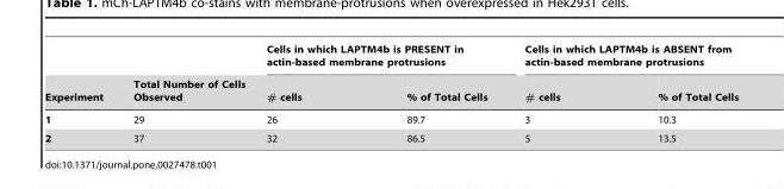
<table><thead><tr><td rowspan="2">Experiment</td><td rowspan="2">Total Number of Cells Observed</td><td colspan="2">Cells in which LAPTM4b is PRESENT in actin-based membrane protrusions</td><td colspan="2">Cells in which LAPTM4b is ABSENT from actin-based membrane protrusions</td></tr><tr><td># cells</td><td>% of Total Cells</td><td># cells</td><td>% of Total Cells</td></tr></thead><tbody><tr><td>1</td><td>29</td><td>26</td><td>89.7</td><td>3</td><td>10.3</td></tr><tr><td>2</td><td>37</td><td>32</td><td>86.5</td><td>5</td><td>13.5</td></tr></tbody></table>